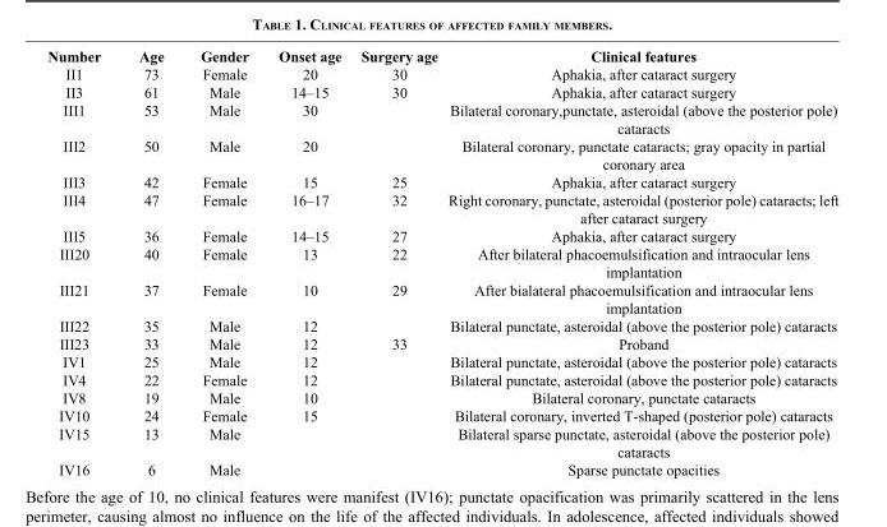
<table><tbody><tr><td>Number</td><td>Age</td><td>Gender</td><td>Onset age</td><td>Surgery age</td><td>Clinical features</td></tr><tr><td>II1</td><td>73</td><td>Female</td><td>20</td><td>30</td><td>Aphakia, after cataract surgery</td></tr><tr><td>II3</td><td>61</td><td>Male</td><td>14–15</td><td>30</td><td>Aphakia, after cataract surgery</td></tr><tr><td>III1</td><td>53</td><td>Male</td><td>30</td><td></td><td>Bilateral coronary,punctate, asteroidal (above the posterior pole) cataracts</td></tr><tr><td>III2</td><td>50</td><td>Male</td><td>20</td><td></td><td>Bilateral coronary, punctate cataracts; gray opacity in partial coronary area</td></tr><tr><td>III3</td><td>42</td><td>Female</td><td>15</td><td>25</td><td>Aphakia, after cataract surgery</td></tr><tr><td>III4</td><td>47</td><td>Female</td><td>16–17</td><td>32</td><td>Right coronary, punctate, asteroidal (posterior pole) cataracts; left after cataract surgery</td></tr><tr><td>III5</td><td>36</td><td>Female</td><td>14–15</td><td>27</td><td>Aphakia, after cataract surgery</td></tr><tr><td>III20</td><td>40</td><td>Female</td><td>13</td><td>22</td><td>After bilateral phacoemulsification and intraocular lens implantation</td></tr><tr><td>III21</td><td>37</td><td>Female</td><td>10</td><td>29</td><td>After bialateral phacoemulsification and intraocular lens implantation</td></tr><tr><td>III22</td><td>35</td><td>Male</td><td>12</td><td></td><td>Bilateral punctate, asteroidal (above the posterior pole) cataracts</td></tr><tr><td>III23</td><td>33</td><td>Male</td><td>12</td><td>33</td><td>Proband</td></tr><tr><td>IV1</td><td>25</td><td>Male</td><td>12</td><td></td><td>Bilateral punctate, asteroidal (above the posterior pole) cataracts</td></tr><tr><td>IV4</td><td>22</td><td>Female</td><td>12</td><td></td><td>Bilateral punctate, asteroidal (above the posterior pole) cataracts</td></tr><tr><td>IV8</td><td>19</td><td>Male</td><td>10</td><td></td><td>Bilateral coronary, punctate cataracts</td></tr><tr><td>IV10</td><td>24</td><td>Female</td><td>15</td><td></td><td>Bilateral coronary, inverted T-shaped (posterior pole) cataracts</td></tr><tr><td>IV15</td><td>13</td><td>Male</td><td></td><td></td><td>Bilateral sparse punctate, asteroidal (above the posterior pole) cataracts</td></tr><tr><td>IV16</td><td>6</td><td>Male</td><td></td><td></td><td>Sparse punctate opacities</td></tr></tbody></table>